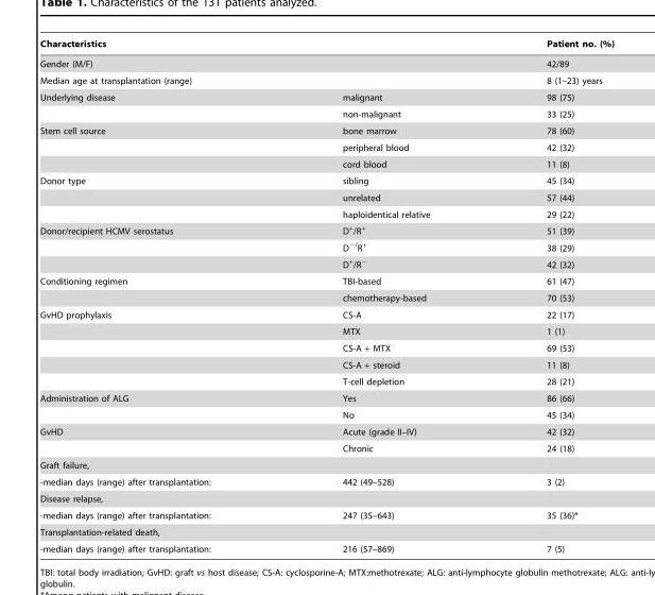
<table><thead><tr><td colspan="2">Characteristics</td><td rowspan="2">Patient no. (%) 42/89</td></tr><tr><td>Gender (M/F)</td><td></td></tr></thead><tbody><tr><td>Median age at transplantation (range)</td><td></td><td>8 (1–23) years</td></tr><tr><td rowspan="2">Underlying disease</td><td>malignant</td><td>98 (75)</td></tr><tr><td>non-malignant</td><td>33 (25)</td></tr><tr><td rowspan="3">Stem cell source</td><td>bone marrow</td><td>78 (60)</td></tr><tr><td>peripheral blood</td><td>42 (32)</td></tr><tr><td>cord blood</td><td>11 (8)</td></tr><tr><td rowspan="3">Donor type</td><td>sibling</td><td>45 (34)</td></tr><tr><td>unrelated</td><td>57 (44)</td></tr><tr><td>haploidentical relative</td><td>29 (22)</td></tr><tr><td rowspan="3">Donor/recipient HCMV serostatus</td><td>D<sup>+</sup>/R<sup>+</sup></td><td>51 (39)</td></tr><tr><td>D<sup>−/</sup>R<sup>+</sup></td><td>38 (29)</td></tr><tr><td>D<sup>+</sup>/R<sup>−</sup></td><td>42 (32)</td></tr><tr><td rowspan="2">Conditioning regimen</td><td>TBI-based</td><td>61 (47)</td></tr><tr><td>chemotherapy-based</td><td>70 (53)</td></tr><tr><td rowspan="5">GvHD prophylaxis</td><td>CS-A</td><td>22 (17)</td></tr><tr><td>MTX</td><td>1 (1)</td></tr><tr><td>CS-A + MTX</td><td>69 (53)</td></tr><tr><td>CS-A + steroid</td><td>11 (8)</td></tr><tr><td>T-cell depletion</td><td>28 (21)</td></tr><tr><td rowspan="2">Administration of ALG</td><td>Yes</td><td>86 (66)</td></tr><tr><td>No</td><td>45 (34)</td></tr><tr><td rowspan="2">GvHD</td><td>Acute (grade II–IV)</td><td>42 (32)</td></tr><tr><td>Chronic</td><td>24 (18)</td></tr><tr><td colspan="3">Graft failure,</td></tr><tr><td>-median days (range) after transplantation:</td><td>442 (49–528)</td><td>3 (2)</td></tr><tr><td colspan="3">Disease relapse,</td></tr><tr><td>-median days (range) after transplantation:</td><td>247 (35–643)</td><td>35 (36)*</td></tr><tr><td colspan="3">Transplantation-related death,</td></tr><tr><td>-median days (range) after transplantation:</td><td>216 (57–869)</td><td>7 (5)</td></tr></tbody></table>